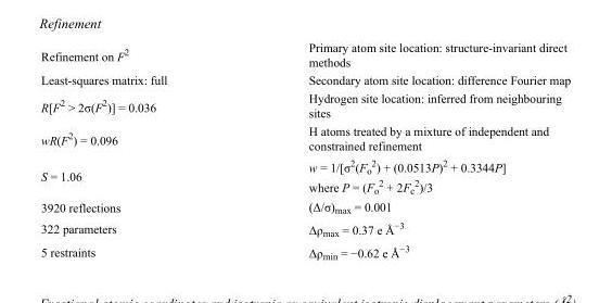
<table><tbody><tr><td>Refinement on F<sup>2</sup></td><td>Primary atom site location: structure-invariant direct methods</td></tr><tr><td>Least-squares matrix: full</td><td>Secondary atom site location: difference Fourier map</td></tr><tr><td>R[F<sup>2</sup> &gt; 2σ(F<sup>2</sup>)] = 0.036</td><td>Hydrogen site location: inferred from neighbouring sites</td></tr><tr><td>wR(F<sup>2</sup>) = 0.096</td><td>H atoms treated by a mixture of independent and constrained refinement</td></tr><tr><td>S = 1.06</td><td>w = 1/[σ<sup>2</sup>(F<sub>o</sub> <sup>2</sup>) + (0.0513P)<sup>2</sup> + 0.3344P] where P = (F<sub>o</sub> <sup>2</sup> + 2F<sub>c</sub> <sup>2</sup>)/3</td></tr><tr><td>3920 reflections</td><td>(Δ/σ)<sub>max</sub> = 0.001</td></tr><tr><td>322 parameters</td><td>Δρ<sub>max</sub> = 0.37 e Å<sup>−3</sup></td></tr><tr><td>5 restraints</td><td>Δρ<sub>min</sub> = −0.62 e Å<sup>−3</sup></td></tr></tbody></table>